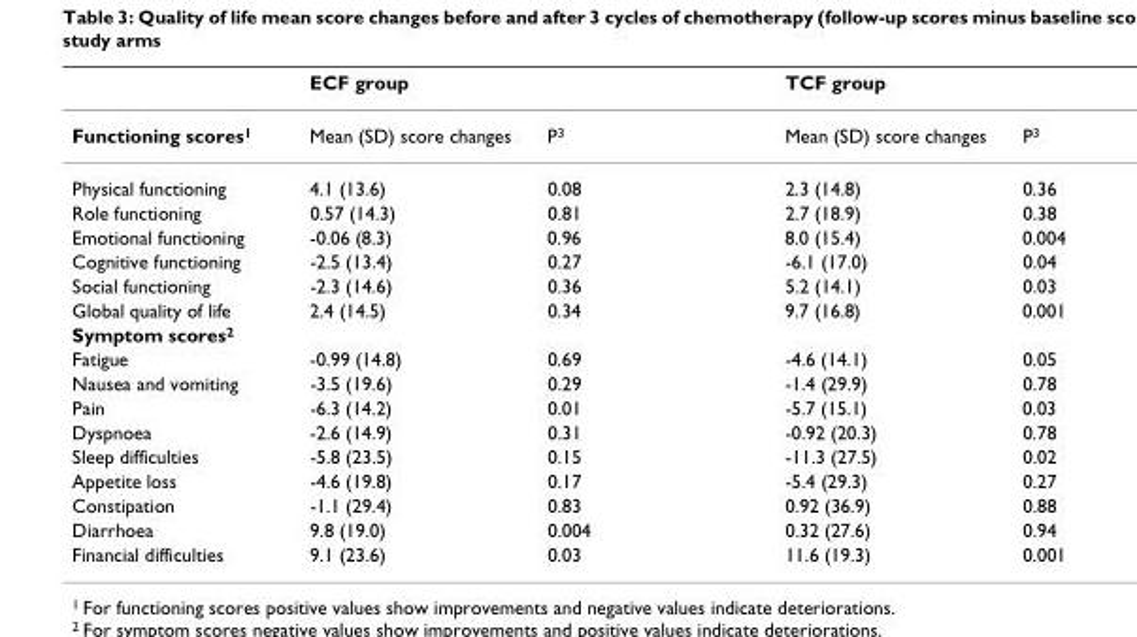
<table><thead><tr><td></td><td>ECF group</td><td></td><td>TCF group</td><td></td></tr></thead><tbody><tr><td>Functioning scores1</td><td>Mean (SD) score changes</td><td>P3</td><td>Mean (SD) score changes</td><td>P3</td></tr><tr><td>Physical functioning</td><td>4.1 (13.6)</td><td>0.08</td><td>2.3 (14.8)</td><td>0.36</td></tr><tr><td>Role functioning</td><td>0.57 (14.3)</td><td>0.81</td><td>2.7 (18.9)</td><td>0.38</td></tr><tr><td>Emotional functioning</td><td>-0.06 (8.3)</td><td>0.96</td><td>8.0 (15.4)</td><td>0.004</td></tr><tr><td>Cognitive functioning</td><td>-2.5 (13.4)</td><td>0.27</td><td>-6.1 (17.0)</td><td>0.04</td></tr><tr><td>Social functioning</td><td>-2.3 (14.6)</td><td>0.36</td><td>5.2 (14.1)</td><td>0.03</td></tr><tr><td>Global quality of life</td><td>2.4 (14.5)</td><td>0.34</td><td>9.7 (16.8)</td><td>0.001</td></tr><tr><td colspan="5">Symptom scores2</td></tr><tr><td>Fatigue</td><td>-0.99 (14.8)</td><td>0.69</td><td>-4.6 (14.1)</td><td>0.05</td></tr><tr><td>Nausea and vomiting</td><td>-3.5 (19.6)</td><td>0.29</td><td>-1.4 (29.9)</td><td>0.78</td></tr><tr><td>Pain</td><td>-6.3 (14.2)</td><td>0.01</td><td>-5.7 (15.1)</td><td>0.03</td></tr><tr><td>Dyspnoea</td><td>-2.6 (14.9)</td><td>0.31</td><td>-0.92 (20.3)</td><td>0.78</td></tr><tr><td>Sleep difficulties</td><td>-5.8 (23.5)</td><td>0.15</td><td>-11.3 (27.5)</td><td>0.02</td></tr><tr><td>Appetite loss</td><td>-4.6 (19.8)</td><td>0.17</td><td>-5.4 (29.3)</td><td>0.27</td></tr><tr><td>Constipation</td><td>-1.1 (29.4)</td><td>0.83</td><td>0.92 (36.9)</td><td>0.88</td></tr><tr><td>Diarrhoea</td><td>9.8 (19.0)</td><td>0.004</td><td>0.32 (27.6)</td><td>0.94</td></tr><tr><td>Financial difficulties</td><td>9.1 (23.6)</td><td>0.03</td><td>11.6 (19.3)</td><td>0.001</td></tr></tbody></table>